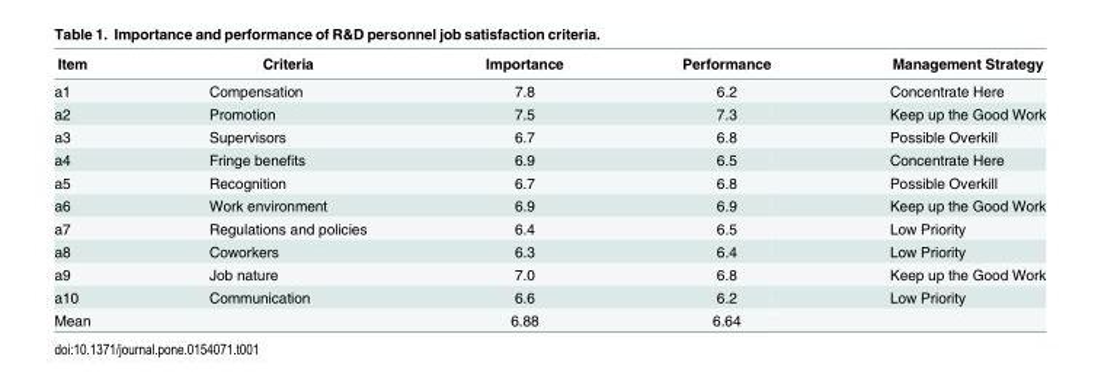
<table><thead><tr><td>Item</td><td>Criteria</td><td>Importance</td><td>Performance</td><td>Management Strategy</td></tr></thead><tbody><tr><td>a1</td><td>Compensation</td><td>7.8</td><td>6.2</td><td>Concentrate Here</td></tr><tr><td>a2</td><td>Promotion</td><td>7.5</td><td>7.3</td><td>Keep up the Good Work</td></tr><tr><td>a3</td><td>Supervisors</td><td>6.7</td><td>6.8</td><td>Possible Overkill</td></tr><tr><td>a4</td><td>Fringe benefits</td><td>6.9</td><td>6.5</td><td>Concentrate Here</td></tr><tr><td>a5</td><td>Recognition</td><td>6.7</td><td>6.8</td><td>Possible Overkill</td></tr><tr><td>a6</td><td>Work environment</td><td>6.9</td><td>6.9</td><td>Keep up the Good Work</td></tr><tr><td>a7</td><td>Regulations and policies</td><td>6.4</td><td>6.5</td><td>Low Priority</td></tr><tr><td>a8</td><td>Coworkers</td><td>6.3</td><td>6.4</td><td>Low Priority</td></tr><tr><td>a9</td><td>Job nature</td><td>7.0</td><td>6.8</td><td>Keep up the Good Work</td></tr><tr><td>a10</td><td>Communication</td><td>6.6</td><td>6.2</td><td>Low Priority</td></tr><tr><td>Mean</td><td></td><td>6.88</td><td>6.64</td><td></td></tr></tbody></table>